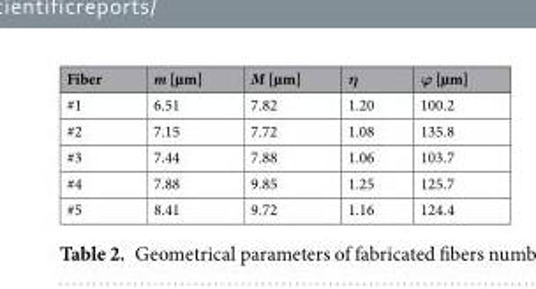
<table><thead><tr><td>Fiber</td><td>m [µm]</td><td>M [µm]</td><td>η</td><td>ϕ [µm]</td></tr></thead><tbody><tr><td>#1</td><td>6.51</td><td>7.82</td><td>1.20</td><td>100.2</td></tr><tr><td>#2</td><td>7.15</td><td>7.72</td><td>1.08</td><td>135.8</td></tr><tr><td>#3</td><td>7.44</td><td>7.88</td><td>1.06</td><td>103.7</td></tr><tr><td>#4</td><td>7.88</td><td>9.85</td><td>1.25</td><td>125.7</td></tr><tr><td>#5</td><td>8.41</td><td>9.72</td><td>1.16</td><td>124.4</td></tr></tbody></table>